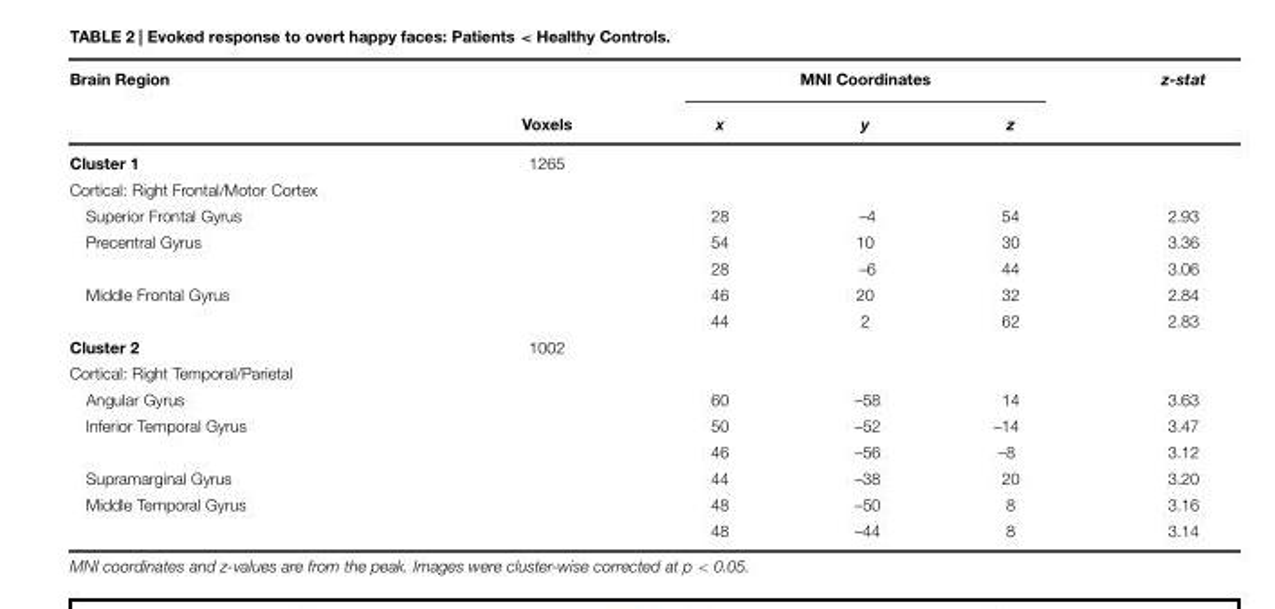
<table><thead><tr><td rowspan="2">Brain Region</td><td rowspan="2">Voxels</td><td colspan="3">MNI Coordinates</td><td rowspan="2">z-stat</td></tr><tr><td>x</td><td>y</td><td>z</td></tr></thead><tbody><tr><td>Cluster 1</td><td>1265</td><td></td><td></td><td></td><td></td></tr><tr><td colspan="6">Cortical: Right Frontal/Motor Cortex</td></tr><tr><td>Superior Frontal Gyrus</td><td></td><td>28</td><td>–4</td><td>54</td><td>2.93</td></tr><tr><td rowspan="2">Precentral Gyrus</td><td></td><td>54</td><td>10</td><td>30</td><td>3.36</td></tr><tr><td></td><td>28</td><td>–6</td><td>44</td><td>3.06</td></tr><tr><td rowspan="2">Middle Frontal Gyrus</td><td></td><td>46</td><td>20</td><td>32</td><td>2.84</td></tr><tr><td></td><td>44</td><td>2</td><td>62</td><td>2.83</td></tr><tr><td>Cluster 2</td><td>1002</td><td></td><td></td><td></td><td></td></tr><tr><td colspan="6">Cortical: Right Temporal/Parietal</td></tr><tr><td>Angular Gyrus</td><td></td><td>60</td><td>–58</td><td>14</td><td>3.63</td></tr><tr><td rowspan="2">Inferior Temporal Gyrus</td><td></td><td>50</td><td>–52</td><td>–14</td><td>3.47</td></tr><tr><td></td><td>46</td><td>–56</td><td>–8</td><td>3.12</td></tr><tr><td>Supramarginal Gyrus</td><td></td><td>44</td><td>–38</td><td>20</td><td>3.20</td></tr><tr><td rowspan="2">Middle Temporal Gyrus</td><td></td><td>48</td><td>–50</td><td>8</td><td>3.16</td></tr><tr><td></td><td>48</td><td>–44</td><td>8</td><td>3.14</td></tr></tbody></table>